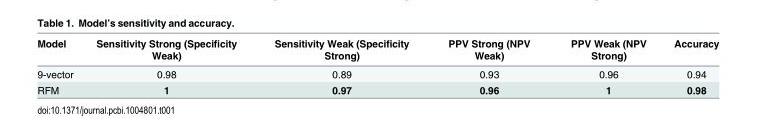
<table><thead><tr><td>Model</td><td>Sensitivity Strong (Specificity Weak)</td><td>Sensitivity Weak (Specificity Strong)</td><td>PPV Strong (NPV Weak)</td><td>PPV Weak (NPV Strong)</td><td>Accuracy</td></tr></thead><tbody><tr><td>9-vector</td><td>0.98</td><td>0.89</td><td>0.93</td><td>0.96</td><td>0.94</td></tr><tr><td>RFM</td><td>1</td><td>0.97</td><td>0.96</td><td>1</td><td>0.98</td></tr></tbody></table>